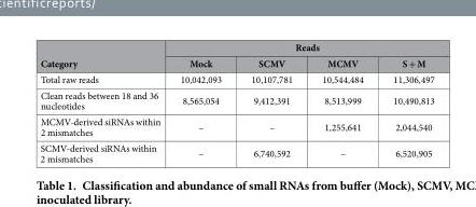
<table><thead><tr><td rowspan="2">Category</td><td colspan="4">Reads</td></tr><tr><td>Mock</td><td>SCMV</td><td>MCMV</td><td>S + M</td></tr></thead><tbody><tr><td>Total raw reads</td><td>10,042,093</td><td>10,107,781</td><td>10,544,484</td><td>11,306,497</td></tr><tr><td>Clean reads between 18 and 36 nucleotides</td><td>8,565,054</td><td>9,412,391</td><td>8,513,999</td><td>10,490,813</td></tr><tr><td>MCMV-derived siRNAs within 2 mismatches</td><td>–</td><td>–</td><td>1,255,641</td><td>2,044,540</td></tr><tr><td>SCMV-derived siRNAs within 2 mismatches</td><td>–</td><td>6,740,592</td><td>–</td><td>6,520,905</td></tr></tbody></table>